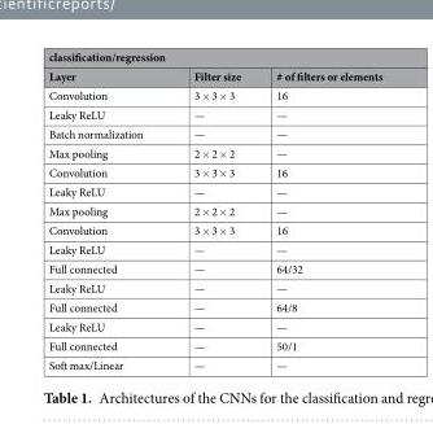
<table><thead><tr><td colspan="3">classification/regression</td></tr><tr><td>Layer</td><td>Filter size</td><td># of filters or elements</td></tr></thead><tbody><tr><td>Convolution</td><td>3 × 3 × 3</td><td>16</td></tr><tr><td>Leaky ReLU</td><td>—</td><td>—</td></tr><tr><td>Batch normalization</td><td>—</td><td>—</td></tr><tr><td>Max pooling</td><td>2 × 2 × 2</td><td>—</td></tr><tr><td>Convolution</td><td>3 × 3 × 3</td><td>16</td></tr><tr><td>Leaky ReLU</td><td>—</td><td>—</td></tr><tr><td>Max pooling</td><td>2 × 2 × 2</td><td>—</td></tr><tr><td>Convolution</td><td>3 × 3 × 3</td><td>16</td></tr><tr><td>Leaky ReLU</td><td>—</td><td>—</td></tr><tr><td>Full connected</td><td>—</td><td>64/32</td></tr><tr><td>Leaky ReLU</td><td>—</td><td>—</td></tr><tr><td>Full connected</td><td>—</td><td>64/8</td></tr><tr><td>Leaky ReLU</td><td>—</td><td>—</td></tr><tr><td>Full connected</td><td>—</td><td>50/1</td></tr><tr><td>Soft max/Linear</td><td>—</td><td>—</td></tr></tbody></table>